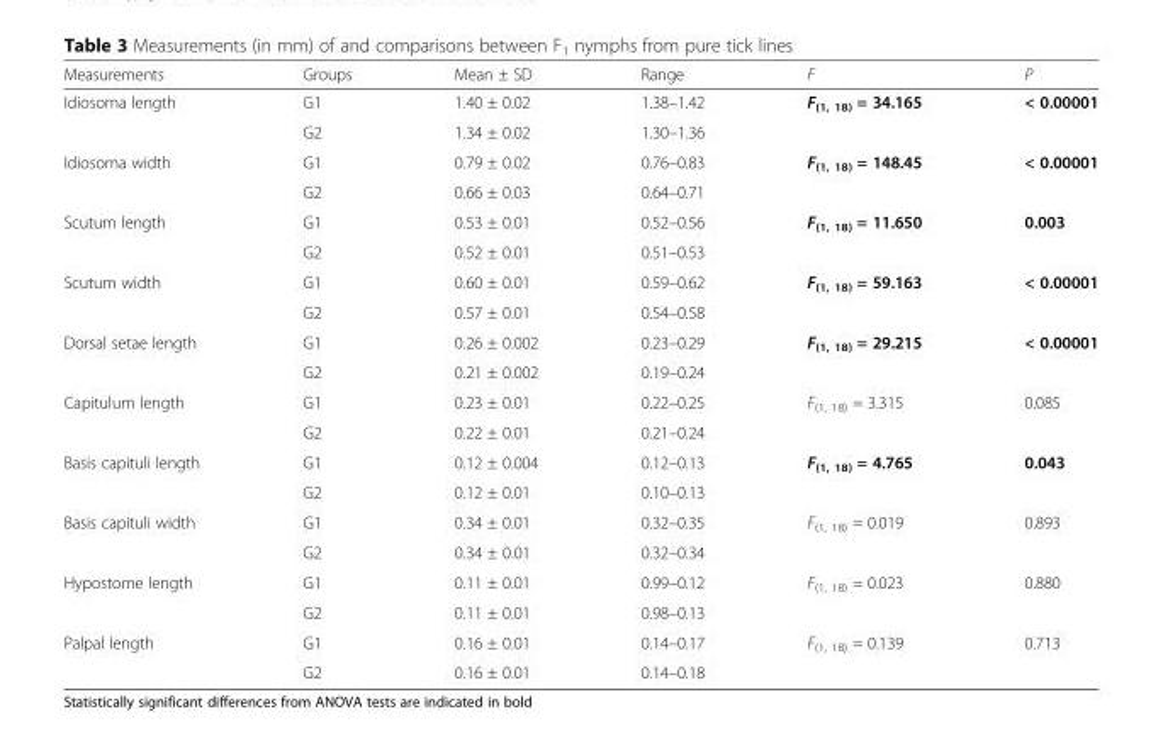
<table><thead><tr><td>Measurements</td><td>Groups</td><td>Mean ± SD</td><td>Range</td><td>F</td><td>P</td></tr></thead><tbody><tr><td rowspan="2">Idiosoma length</td><td>G1</td><td>1.40 ± 0.02</td><td>1.38–1.42</td><td rowspan="2">F<sub>(1, 18)</sub> = 34.165</td><td rowspan="2">&lt; 0.00001</td></tr><tr><td>G2</td><td>1.34 ± 0.02</td><td>1.30–1.36</td></tr><tr><td rowspan="2">Idiosoma width</td><td>G1</td><td>0.79 ± 0.02</td><td>0.76–0.83</td><td rowspan="2">F<sub>(1, 18)</sub> = 148.45</td><td rowspan="2">&lt; 0.00001</td></tr><tr><td>G2</td><td>0.66 ± 0.03</td><td>0.64–0.71</td></tr><tr><td rowspan="2">Scutum length</td><td>G1</td><td>0.53 ± 0.01</td><td>0.52–0.56</td><td rowspan="2">F<sub>(1, 18)</sub> = 11.650</td><td rowspan="2">0.003</td></tr><tr><td>G2</td><td>0.52 ± 0.01</td><td>0.51–0.53</td></tr><tr><td rowspan="2">Scutum width</td><td>G1</td><td>0.60 ± 0.01</td><td>0.59–0.62</td><td rowspan="2">F<sub>(1, 18)</sub> = 59.163</td><td rowspan="2">&lt; 0.00001</td></tr><tr><td>G2</td><td>0.57 ± 0.01</td><td>0.54–0.58</td></tr><tr><td rowspan="2">Dorsal setae length</td><td>G1</td><td>0.26 ± 0.002</td><td>0.23–0.29</td><td rowspan="2">F<sub>(1, 18)</sub> = 29.215</td><td rowspan="2">&lt; 0.00001</td></tr><tr><td>G2</td><td>0.21 ± 0.002</td><td>0.19–0.24</td></tr><tr><td rowspan="2">Capitulum length</td><td>G1</td><td>0.23 ± 0.01</td><td>0.22–0.25</td><td rowspan="2">F<sub>(1, 18)</sub> = 3.315</td><td rowspan="2">0.085</td></tr><tr><td>G2</td><td>0.22 ± 0.01</td><td>0.21–0.24</td></tr><tr><td rowspan="2">Basis capituli length</td><td>G1</td><td>0.12 ± 0.004</td><td>0.12–0.13</td><td rowspan="2">F<sub>(1, 18)</sub> = 4.765</td><td rowspan="2">0.043</td></tr><tr><td>G2</td><td>0.12 ± 0.01</td><td>0.10–0.13</td></tr><tr><td rowspan="2">Basis capituli width</td><td>G1</td><td>0.34 ± 0.01</td><td>0.32–0.35</td><td rowspan="2">F<sub>(1, 18)</sub> = 0.019</td><td rowspan="2">0.893</td></tr><tr><td>G2</td><td>0.34 ± 0.01</td><td>0.32–0.34</td></tr><tr><td rowspan="2">Hypostome length</td><td>G1</td><td>0.11 ± 0.01</td><td>0.99–0.12</td><td rowspan="2">F<sub>(1, 18)</sub> = 0.023</td><td rowspan="2">0.880</td></tr><tr><td>G2</td><td>0.11 ± 0.01</td><td>0.98–0.13</td></tr><tr><td rowspan="2">Palpal length</td><td>G1</td><td>0.16 ± 0.01</td><td>0.14–0.17</td><td rowspan="2">F<sub>(1, 18)</sub> = 0.139</td><td rowspan="2">0.713</td></tr><tr><td>G2</td><td>0.16 ± 0.01</td><td>0.14–0.18</td></tr></tbody></table>